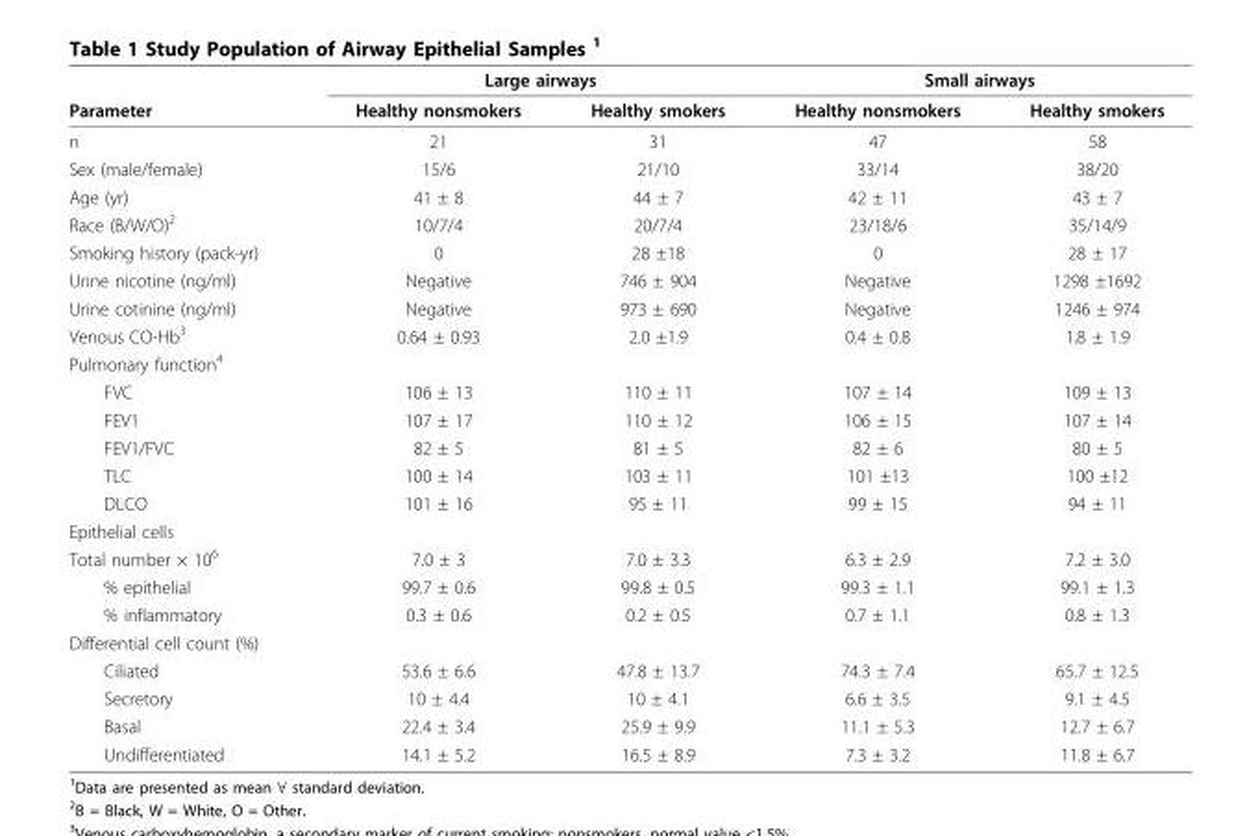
<table><thead><tr><td rowspan="2">Parameter</td><td colspan="2">Large airways</td><td colspan="2">Small airways</td></tr><tr><td>Healthy nonsmokers</td><td>Healthy smokers</td><td>Healthy nonsmokers</td><td>Healthy smokers</td></tr></thead><tbody><tr><td>n</td><td>21</td><td>31</td><td>47</td><td>58</td></tr><tr><td>Sex (male/female)</td><td>15/6</td><td>21/10</td><td>33/14</td><td>38/20</td></tr><tr><td>Age (yr)</td><td>41 ± 8</td><td>44 ± 7</td><td>42 ± 11</td><td>43 ± 7</td></tr><tr><td>Race (B/W/O)<sup>2</sup></td><td>10/7/4</td><td>20/7/4</td><td>23/18/6</td><td>35/14/9</td></tr><tr><td>Smoking history (pack-yr)</td><td>0</td><td>28 ±18</td><td>0</td><td>28 ± 17</td></tr><tr><td>Urine nicotine (ng/ml)</td><td>Negative</td><td>746 ± 904</td><td>Negative</td><td>1298 ±1692</td></tr><tr><td>Urine cotinine (ng/ml)</td><td>Negative</td><td>973 ± 690</td><td>Negative</td><td>1246 ± 974</td></tr><tr><td>Venous CO-Hb<sup>3</sup></td><td>0.64 ± 0.93</td><td>2.0 ±1.9</td><td>0.4 ± 0.8</td><td>1.8 ± 1.9</td></tr><tr><td colspan="5">Pulmonary function<sup>4</sup></td></tr><tr><td>FVC</td><td>106 ± 13</td><td>110 ± 11</td><td>107 ± 14</td><td>109 ± 13</td></tr><tr><td>FEV1</td><td>107 ± 17</td><td>110 ± 12</td><td>106 ± 15</td><td>107 ± 14</td></tr><tr><td>FEV1/FVC</td><td>82 ± 5</td><td>81 ± 5</td><td>82 ± 6</td><td>80 ± 5</td></tr><tr><td>TLC</td><td>100 ± 14</td><td>103 ± 11</td><td>101 ±13</td><td>100 ±12</td></tr><tr><td>DLCO</td><td>101 ± 16</td><td>95 ± 11</td><td>99 ± 15</td><td>94 ± 11</td></tr><tr><td colspan="5">Epithelial cells</td></tr><tr><td>Total number × 10<sup>6</sup></td><td>7.0 ± 3</td><td>7.0 ± 3.3</td><td>6.3 ± 2.9</td><td>7.2 ± 3.0</td></tr><tr><td>% epithelial</td><td>99.7 ± 0.6</td><td>99.8 ± 0.5</td><td>99.3 ± 1.1</td><td>99.1 ± 1.3</td></tr><tr><td>% inflammatory</td><td>0.3 ± 0.6</td><td>0.2 ± 0.5</td><td>0.7 ± 1.1</td><td>0.8 ± 1.3</td></tr><tr><td colspan="5">Differential cell count (%)</td></tr><tr><td>Ciliated</td><td>53.6 ± 6.6</td><td>47.8 ± 13.7</td><td>74.3 ± 7.4</td><td>65.7 ± 12.5</td></tr><tr><td>Secretory</td><td>10 ± 4.4</td><td>10 ± 4.1</td><td>6.6 ± 3.5</td><td>9.1 ± 4.5</td></tr><tr><td>Basal</td><td>22.4 ± 3.4</td><td>25.9 ± 9.9</td><td>11.1 ± 5.3</td><td>12.7 ± 6.7</td></tr><tr><td>Undifferentiated</td><td>14.1 ± 5.2</td><td>16.5 ± 8.9</td><td>7.3 ± 3.2</td><td>11.8 ± 6.7</td></tr></tbody></table>